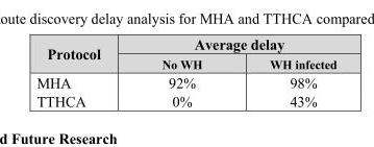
<table><thead><tr><td rowspan="2">Protocol</td><td colspan="2">Average delay</td></tr><tr><td>No WH</td><td>WH infected</td></tr></thead><tbody><tr><td>MHA</td><td>92%</td><td>98%</td></tr><tr><td>TTHCA</td><td>0%</td><td>43%</td></tr></tbody></table>